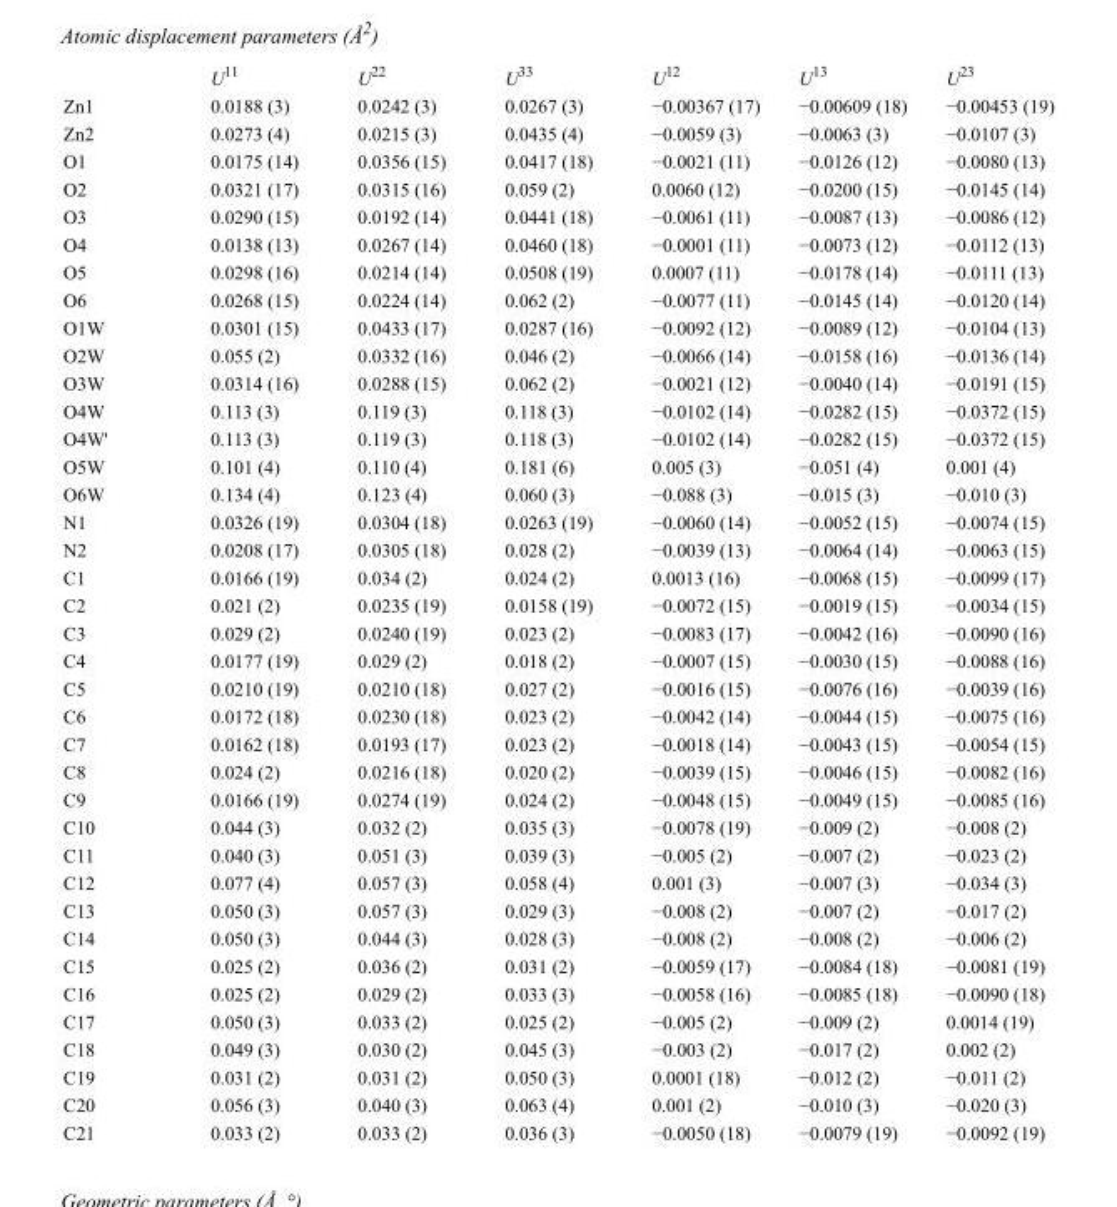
<table><thead><tr><td></td><td>U<sup>11</sup></td><td>U<sup>22</sup></td><td>U<sup>33</sup></td><td>U<sup>12</sup></td><td>U<sup>13</sup></td><td>U<sup>23</sup></td></tr></thead><tbody><tr><td>Zn1</td><td>0.0188 (3)</td><td>0.0242 (3)</td><td>0.0267 (3)</td><td>−0.00367 (17)</td><td>−0.00609 (18)</td><td>−0.00453 (19)</td></tr><tr><td>Zn2</td><td>0.0273 (4)</td><td>0.0215 (3)</td><td>0.0435 (4)</td><td>−0.0059 (3)</td><td>−0.0063 (3)</td><td>−0.0107 (3)</td></tr><tr><td>O1</td><td>0.0175 (14)</td><td>0.0356 (15)</td><td>0.0417 (18)</td><td>−0.0021 (11)</td><td>−0.0126 (12)</td><td>−0.0080 (13)</td></tr><tr><td>O2</td><td>0.0321 (17)</td><td>0.0315 (16)</td><td>0.059 (2)</td><td>0.0060 (12)</td><td>−0.0200 (15)</td><td>−0.0145 (14)</td></tr><tr><td>O3</td><td>0.0290 (15)</td><td>0.0192 (14)</td><td>0.0441 (18)</td><td>−0.0061 (11)</td><td>−0.0087 (13)</td><td>−0.0086 (12)</td></tr><tr><td>O4</td><td>0.0138 (13)</td><td>0.0267 (14)</td><td>0.0460 (18)</td><td>−0.0001 (11)</td><td>−0.0073 (12)</td><td>−0.0112 (13)</td></tr><tr><td>O5</td><td>0.0298 (16)</td><td>0.0214 (14)</td><td>0.0508 (19)</td><td>0.0007 (11)</td><td>−0.0178 (14)</td><td>−0.0111 (13)</td></tr><tr><td>O6</td><td>0.0268 (15)</td><td>0.0224 (14)</td><td>0.062 (2)</td><td>−0.0077 (11)</td><td>−0.0145 (14)</td><td>−0.0120 (14)</td></tr><tr><td>O1W</td><td>0.0301 (15)</td><td>0.0433 (17)</td><td>0.0287 (16)</td><td>−0.0092 (12)</td><td>−0.0089 (12)</td><td>−0.0104 (13)</td></tr><tr><td>O2W</td><td>0.055 (2)</td><td>0.0332 (16)</td><td>0.046 (2)</td><td>−0.0066 (14)</td><td>−0.0158 (16)</td><td>−0.0136 (14)</td></tr><tr><td>O3W</td><td>0.0314 (16)</td><td>0.0288 (15)</td><td>0.062 (2)</td><td>−0.0021 (12)</td><td>−0.0040 (14)</td><td>−0.0191 (15)</td></tr><tr><td>O4W</td><td>0.113 (3)</td><td>0.119 (3)</td><td>0.118 (3)</td><td>−0.0102 (14)</td><td>−0.0282 (15)</td><td>−0.0372 (15)</td></tr><tr><td>O4W&#x27;</td><td>0.113 (3)</td><td>0.119 (3)</td><td>0.118 (3)</td><td>−0.0102 (14)</td><td>−0.0282 (15)</td><td>−0.0372 (15)</td></tr><tr><td>O5W</td><td>0.101 (4)</td><td>0.110 (4)</td><td>0.181 (6)</td><td>0.005 (3)</td><td>−0.051 (4)</td><td>0.001 (4)</td></tr><tr><td>O6W</td><td>0.134 (4)</td><td>0.123 (4)</td><td>0.060 (3)</td><td>−0.088 (3)</td><td>−0.015 (3)</td><td>−0.010 (3)</td></tr><tr><td>N1</td><td>0.0326 (19)</td><td>0.0304 (18)</td><td>0.0263 (19)</td><td>−0.0060 (14)</td><td>−0.0052 (15)</td><td>−0.0074 (15)</td></tr><tr><td>N2</td><td>0.0208 (17)</td><td>0.0305 (18)</td><td>0.028 (2)</td><td>−0.0039 (13)</td><td>−0.0064 (14)</td><td>−0.0063 (15)</td></tr><tr><td>C1</td><td>0.0166 (19)</td><td>0.034 (2)</td><td>0.024 (2)</td><td>0.0013 (16)</td><td>−0.0068 (15)</td><td>−0.0099 (17)</td></tr><tr><td>C2</td><td>0.021 (2)</td><td>0.0235 (19)</td><td>0.0158 (19)</td><td>−0.0072 (15)</td><td>−0.0019 (15)</td><td>−0.0034 (15)</td></tr><tr><td>C3</td><td>0.029 (2)</td><td>0.0240 (19)</td><td>0.023 (2)</td><td>−0.0083 (17)</td><td>−0.0042 (16)</td><td>−0.0090 (16)</td></tr><tr><td>C4</td><td>0.0177 (19)</td><td>0.029 (2)</td><td>0.018 (2)</td><td>−0.0007 (15)</td><td>−0.0030 (15)</td><td>−0.0088 (16)</td></tr><tr><td>C5</td><td>0.0210 (19)</td><td>0.0210 (18)</td><td>0.027 (2)</td><td>−0.0016 (15)</td><td>−0.0076 (16)</td><td>−0.0039 (16)</td></tr><tr><td>C6</td><td>0.0172 (18)</td><td>0.0230 (18)</td><td>0.023 (2)</td><td>−0.0042 (14)</td><td>−0.0044 (15)</td><td>−0.0075 (16)</td></tr><tr><td>C7</td><td>0.0162 (18)</td><td>0.0193 (17)</td><td>0.023 (2)</td><td>−0.0018 (14)</td><td>−0.0043 (15)</td><td>−0.0054 (15)</td></tr><tr><td>C8</td><td>0.024 (2)</td><td>0.0216 (18)</td><td>0.020 (2)</td><td>−0.0039 (15)</td><td>−0.0046 (15)</td><td>−0.0082 (16)</td></tr><tr><td>C9</td><td>0.0166 (19)</td><td>0.0274 (19)</td><td>0.024 (2)</td><td>−0.0048 (15)</td><td>−0.0049 (15)</td><td>−0.0085 (16)</td></tr><tr><td>C10</td><td>0.044 (3)</td><td>0.032 (2)</td><td>0.035 (3)</td><td>−0.0078 (19)</td><td>−0.009 (2)</td><td>−0.008 (2)</td></tr><tr><td>C11</td><td>0.040 (3)</td><td>0.051 (3)</td><td>0.039 (3)</td><td>−0.005 (2)</td><td>−0.007 (2)</td><td>−0.023 (2)</td></tr><tr><td>C12</td><td>0.077 (4)</td><td>0.057 (3)</td><td>0.058 (4)</td><td>0.001 (3)</td><td>−0.007 (3)</td><td>−0.034 (3)</td></tr><tr><td>C13</td><td>0.050 (3)</td><td>0.057 (3)</td><td>0.029 (3)</td><td>−0.008 (2)</td><td>−0.007 (2)</td><td>−0.017 (2)</td></tr><tr><td>C14</td><td>0.050 (3)</td><td>0.044 (3)</td><td>0.028 (3)</td><td>−0.008 (2)</td><td>−0.008 (2)</td><td>−0.006 (2)</td></tr><tr><td>C15</td><td>0.025 (2)</td><td>0.036 (2)</td><td>0.031 (2)</td><td>−0.0059 (17)</td><td>−0.0084 (18)</td><td>−0.0081 (19)</td></tr><tr><td>C16</td><td>0.025 (2)</td><td>0.029 (2)</td><td>0.033 (3)</td><td>−0.0058 (16)</td><td>−0.0085 (18)</td><td>−0.0090 (18)</td></tr><tr><td>C17</td><td>0.050 (3)</td><td>0.033 (2)</td><td>0.025 (2)</td><td>−0.005 (2)</td><td>−0.009 (2)</td><td>0.0014 (19)</td></tr><tr><td>C18</td><td>0.049 (3)</td><td>0.030 (2)</td><td>0.045 (3)</td><td>−0.003 (2)</td><td>−0.017 (2)</td><td>0.002 (2)</td></tr><tr><td>C19</td><td>0.031 (2)</td><td>0.031 (2)</td><td>0.050 (3)</td><td>0.0001 (18)</td><td>−0.012 (2)</td><td>−0.011 (2)</td></tr><tr><td>C20</td><td>0.056 (3)</td><td>0.040 (3)</td><td>0.063 (4)</td><td>0.001 (2)</td><td>−0.010 (3)</td><td>−0.020 (3)</td></tr><tr><td>C21</td><td>0.033 (2)</td><td>0.033 (2)</td><td>0.036 (3)</td><td>−0.0050 (18)</td><td>−0.0079 (19)</td><td>−0.0092 (19)</td></tr></tbody></table>